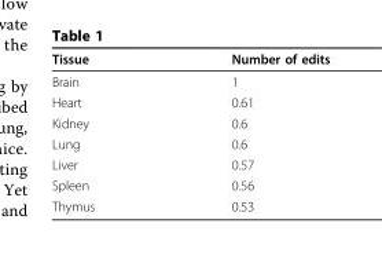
<table><thead><tr><td>Tissue</td><td>Number of edits</td></tr></thead><tbody><tr><td>Brain</td><td>1</td></tr><tr><td>Heart</td><td>0.61</td></tr><tr><td>Kidney</td><td>0.6</td></tr><tr><td>Lung</td><td>0.6</td></tr><tr><td>Liver</td><td>0.57</td></tr><tr><td>Spleen</td><td>0.56</td></tr><tr><td>Thymus</td><td>0.53</td></tr></tbody></table>